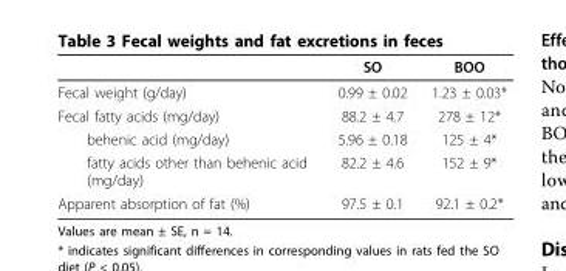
<table><thead><tr><td></td><td>SO</td><td>BOO</td></tr></thead><tbody><tr><td>Fecal weight (g/day)</td><td>0.99 ± 0.02</td><td>1.23 ± 0.03*</td></tr><tr><td>Fecal fatty acids (mg/day)</td><td>88.2 ± 4.7</td><td>278 ± 12*</td></tr><tr><td>behenic acid (mg/day)</td><td>5.96 ± 0.18</td><td>125 ± 4*</td></tr><tr><td>fatty acids other than behenic acid (mg/day)</td><td>82.2 ± 4.6</td><td>152 ± 9*</td></tr><tr><td>Apparent absorption of fat (%)</td><td>97.5 ± 0.1</td><td>92.1 ± 0.2*</td></tr></tbody></table>